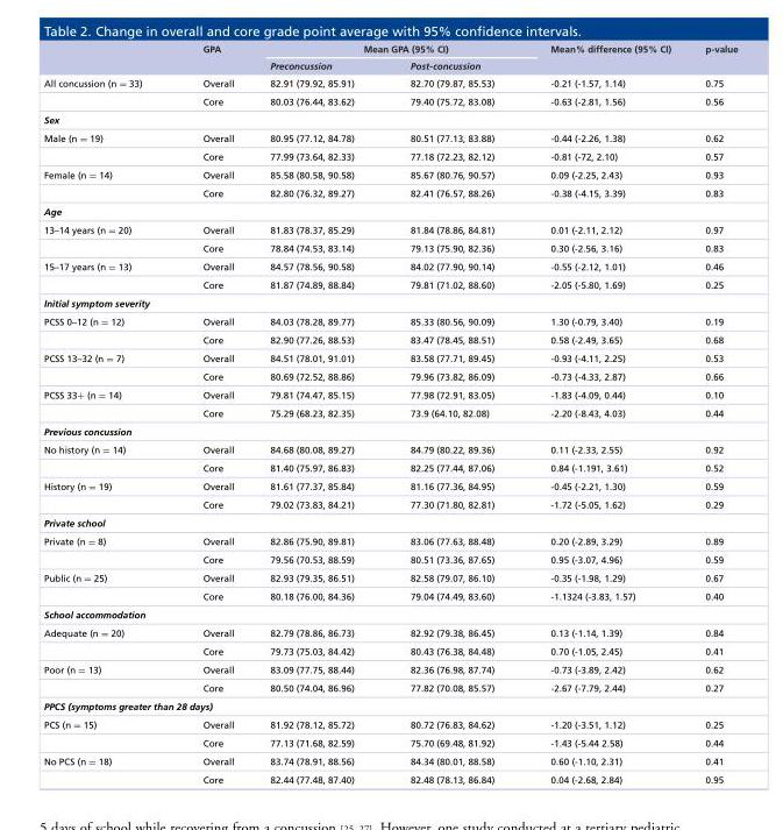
<table><thead><tr><td rowspan="2"></td><td rowspan="2">GPA</td><td colspan="2">Mean GPA (95% CI)</td><td rowspan="2">Mean% difference (95% CI)</td><td rowspan="2">p-value</td></tr><tr><td>Preconcussion</td><td>Post-concussion</td></tr></thead><tbody><tr><td rowspan="2">All concussion (n = 33)</td><td>Overall</td><td>82.91 (79.92, 85.91)</td><td>82.70 (79.87, 85.53)</td><td>-0.21 (-1.57, 1.14)</td><td>0.75</td></tr><tr><td>Core</td><td>80.03 (76.44, 83.62)</td><td>79.40 (75.72, 83.08)</td><td>-0.63 (-2.81, 1.56)</td><td>0.56</td></tr><tr><td colspan="6">Sex</td></tr><tr><td rowspan="2">Male (n = 19)</td><td>Overall</td><td>80.95 (77.12, 84.78)</td><td>80.51 (77.13, 83.88)</td><td>-0.44 (-2.26, 1.38)</td><td>0.62</td></tr><tr><td>Core</td><td>77.99 (73.64, 82.33)</td><td>77.18 (72.23, 82.12)</td><td>-0.81 (-72, 2.10)</td><td>0.57</td></tr><tr><td rowspan="2">Female (n = 14)</td><td>Overall</td><td>85.58 (80.58, 90.58)</td><td>85.67 (80.76, 90.57)</td><td>0.09 (-2.25, 2.43)</td><td>0.93</td></tr><tr><td>Core</td><td>82.80 (76.32, 89.27)</td><td>82.41 (76.57, 88.26)</td><td>-0.38 (-4.15, 3.39)</td><td>0.83</td></tr><tr><td colspan="6">Age</td></tr><tr><td rowspan="2">13–14 years (n = 20)</td><td>Overall</td><td>81.83 (78.37, 85.29)</td><td>81.84 (78.86, 84.81)</td><td>0.01 (-2.11, 2.12)</td><td>0.97</td></tr><tr><td>Core</td><td>78.84 (74.53, 83.14)</td><td>79.13 (75.90, 82.36)</td><td>0.30 (-2.56, 3.16)</td><td>0.83</td></tr><tr><td rowspan="2">15–17 years (n = 13)</td><td>Overall</td><td>84.57 (78.56, 90.58)</td><td>84.02 (77.90, 90.14)</td><td>-0.55 (-2.12, 1.01)</td><td>0.46</td></tr><tr><td>Core</td><td>81.87 (74.89, 88.84)</td><td>79.81 (71.02, 88.60)</td><td>-2.05 (-5.80, 1.69)</td><td>0.25</td></tr><tr><td colspan="6">Initial symptom severity</td></tr><tr><td rowspan="2">PCSS 0–12 (n = 12)</td><td>Overall</td><td>84.03 (78.28, 89.77)</td><td>85.33 (80.56, 90.09)</td><td>1.30 (-0.79, 3.40)</td><td>0.19</td></tr><tr><td>Core</td><td>82.90 (77.26, 88.53)</td><td>83.47 (78.45, 88.51)</td><td>0.58 (-2.49, 3.65)</td><td>0.68</td></tr><tr><td rowspan="2">PCSS 13–32 (n = 7)</td><td>Overall</td><td>84.51 (78.01, 91.01)</td><td>83.58 (77.71, 89.45)</td><td>-0.93 (-4.11, 2.25)</td><td>0.53</td></tr><tr><td>Core</td><td>80.69 (72.52, 88.86)</td><td>79.96 (73.82, 86.09)</td><td>-0.73 (-4.33, 2.87)</td><td>0.66</td></tr><tr><td rowspan="2">PCSS 33+ (n = 14)</td><td>Overall</td><td>79.81 (74.47, 85.15)</td><td>77.98 (72.91, 83.05)</td><td>-1.83 (-4.09, 0.44)</td><td>0.10</td></tr><tr><td>Core</td><td>75.29 (68.23, 82.35)</td><td>73.9 (64.10, 82.08)</td><td>-2.20 (-8.43, 4.03)</td><td>0.44</td></tr><tr><td colspan="6">Previous concussion</td></tr><tr><td rowspan="2">No history (n = 14)</td><td>Overall</td><td>84.68 (80.08, 89.27)</td><td>84.79 (80.22, 89.36)</td><td>0.11 (-2.33, 2.55)</td><td>0.92</td></tr><tr><td>Core</td><td>81.40 (75.97, 86.83)</td><td>82.25 (77.44, 87.06)</td><td>0.84 (-1.191, 3.61)</td><td>0.52</td></tr><tr><td rowspan="2">History (n = 19)</td><td>Overall</td><td>81.61 (77.37, 85.84)</td><td>81.16 (77.36, 84.95)</td><td>-0.45 (-2.21, 1.30)</td><td>0.59</td></tr><tr><td>Core</td><td>79.02 (73.83, 84.21)</td><td>77.30 (71.80, 82.81)</td><td>-1.72 (-5.05, 1.62)</td><td>0.29</td></tr><tr><td colspan="6">Private school</td></tr><tr><td rowspan="2">Private (n = 8)</td><td>Overall</td><td>82.86 (75.90, 89.81)</td><td>83.06 (77.63, 88.48)</td><td>0.20 (-2.89, 3.29)</td><td>0.89</td></tr><tr><td>Core</td><td>79.56 (70.53, 88.59)</td><td>80.51 (73.36, 87.65)</td><td>0.95 (-3.07, 4.96)</td><td>0.59</td></tr><tr><td rowspan="2">Public (n = 25)</td><td>Overall</td><td>82.93 (79.35, 86.51)</td><td>82.58 (79.07, 86.10)</td><td>-0.35 (-1.98, 1.29)</td><td>0.67</td></tr><tr><td>Core</td><td>80.18 (76.00, 84.36)</td><td>79.04 (74.49, 83.60)</td><td>-1.1324 (-3.83, 1.57)</td><td>0.40</td></tr><tr><td colspan="6">School accommodation</td></tr><tr><td rowspan="2">Adequate (n = 20)</td><td>Overall</td><td>82.79 (78.86, 86.73)</td><td>82.92 (79.38, 86.45)</td><td>0.13 (-1.14, 1.39)</td><td>0.84</td></tr><tr><td>Core</td><td>79.73 (75.03, 84.42)</td><td>80.43 (76.38, 84.48)</td><td>0.70 (-1.05, 2.45)</td><td>0.41</td></tr><tr><td rowspan="2">Poor (n = 13)</td><td>Overall</td><td>83.09 (77.75, 88.44)</td><td>82.36 (76.98, 87.74)</td><td>-0.73 (-3.89, 2.42)</td><td>0.62</td></tr><tr><td>Core</td><td>80.50 (74.04, 86.96)</td><td>77.82 (70.08, 85.57)</td><td>-2.67 (-7.79, 2.44)</td><td>0.27</td></tr><tr><td colspan="6">PPCS (symptoms greater than 28 days)</td></tr><tr><td rowspan="2">PCS (n = 15)</td><td>Overall</td><td>81.92 (78.12, 85.72)</td><td>80.72 (76.83, 84.62)</td><td>-1.20 (-3.51, 1.12)</td><td>0.25</td></tr><tr><td>Core</td><td>77.13 (71.68, 82.59)</td><td>75.70 (69.48, 81.92)</td><td>-1.43 (-5.44 2.58)</td><td>0.44</td></tr><tr><td rowspan="2">No PCS (n = 18)</td><td>Overall</td><td>83.74 (78.91, 88.56)</td><td>84.34 (80.01, 88.58)</td><td>0.60 (-1.10, 2.31)</td><td>0.41</td></tr><tr><td>Core</td><td>82.44 (77.48, 87.40)</td><td>82.48 (78.13, 86.84)</td><td>0.04 (-2.68, 2.84)</td><td>0.95</td></tr></tbody></table>